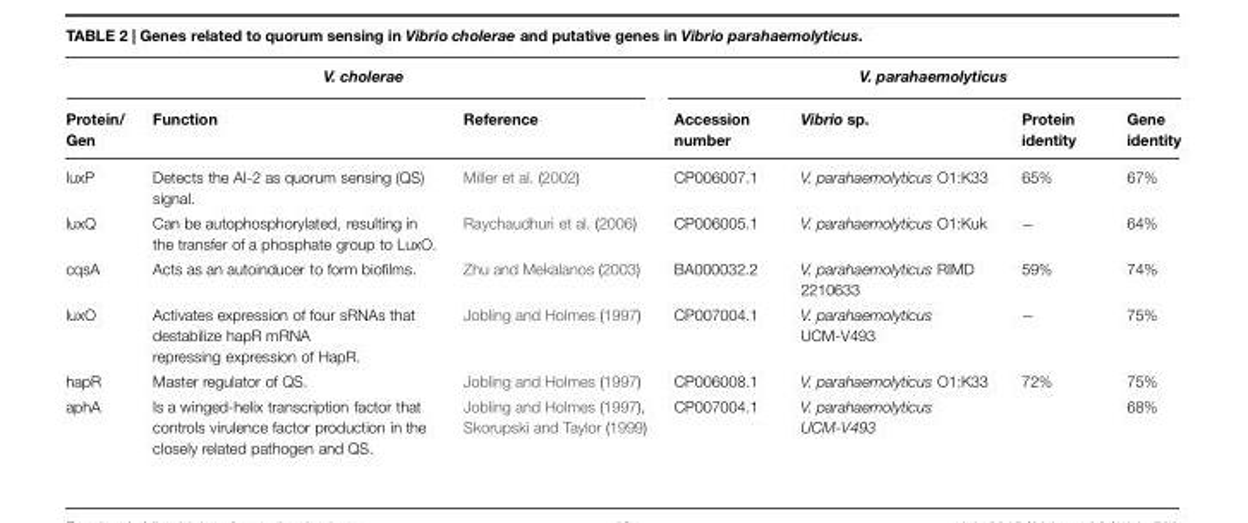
<table><thead><tr><td colspan="3">V. cholerae</td><td colspan="4">V. parahaemolyticus</td></tr><tr><td>Protein/ Gen</td><td>Function</td><td>Reference</td><td>Accession number</td><td>Vibrio sp.</td><td>Protein identity</td><td>Gene identity</td></tr></thead><tbody><tr><td>luxP</td><td>Detects the AI-2 as quorum sensing (QS) signal.</td><td>Miller et al. (2002)</td><td>CP006007.1</td><td>V. parahaemolyticus O1:K33</td><td>65%</td><td>67%</td></tr><tr><td>luxQ</td><td>Can be autophosphorylated, resulting in the transfer of a phosphate group to LuxO.</td><td>Raychaudhuri et al. (2006)</td><td>CP006005.1</td><td>V. parahaemolyticus O1:Kuk</td><td>−</td><td>64%</td></tr><tr><td>cqsA</td><td>Acts as an autoinducer to form biofilms.</td><td>Zhu and Mekalanos (2003)</td><td>BA000032.2</td><td>V. parahaemolyticus RIMD 2210633</td><td>59%</td><td>74%</td></tr><tr><td>luxO</td><td>Activates expression of four sRNAs that destabilize hapR mRNA repressing expression of HapR.</td><td>Jobling and Holmes (1997)</td><td>CP007004.1</td><td>V. parahaemolyticus UCM-V493</td><td>−</td><td>75%</td></tr><tr><td>hapR</td><td>Master regulator of QS.</td><td>Jobling and Holmes (1997)</td><td>CP006008.1</td><td>V. parahaemolyticus O1:K33</td><td>72%</td><td>75%</td></tr><tr><td>aphA</td><td>Is a winged-helix transcription factor that controls virulence factor production in the closely related pathogen and QS.</td><td>Jobling and Holmes (1997), Skorupski and Taylor (1999)</td><td>CP007004.1</td><td>V. parahaemolyticus UCM-V493</td><td></td><td>68%</td></tr></tbody></table>